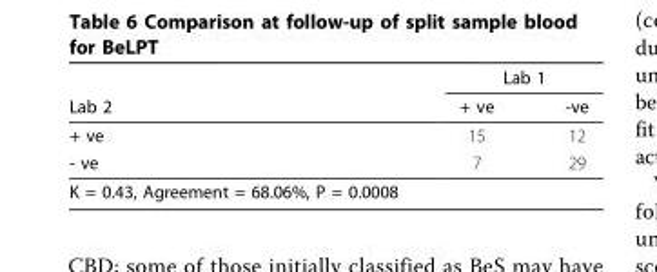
<table><thead><tr><td rowspan="2">Lab 2</td><td colspan="2">Lab 1</td></tr><tr><td>+ ve</td><td>-ve</td></tr></thead><tbody><tr><td>+ ve</td><td>15</td><td>12</td></tr><tr><td>- ve</td><td>7</td><td>29</td></tr><tr><td>K = 0.43, Agreement = 68.06%, P = 0.0008</td><td></td><td></td></tr></tbody></table>